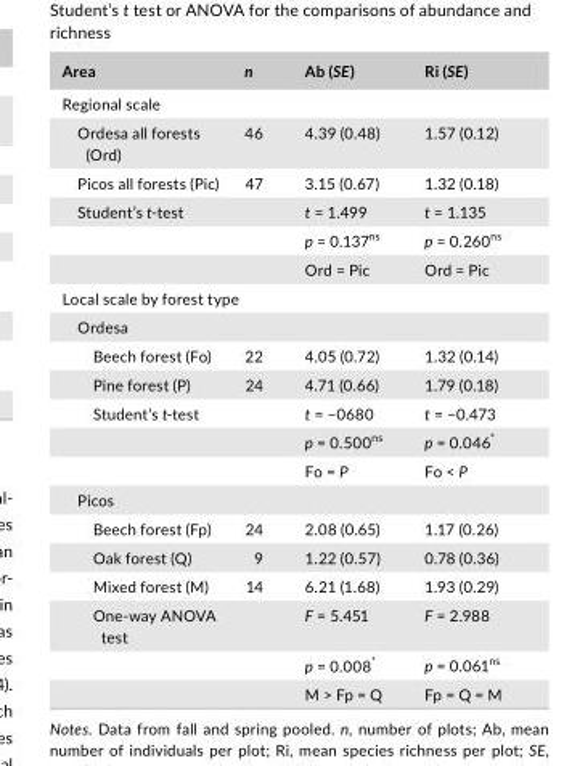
<table><thead><tr><td>Area</td><td>n</td><td>Ab (SE)</td><td>Ri (SE)</td></tr></thead><tbody><tr><td colspan="4">Regional scale</td></tr><tr><td>Ordesa all forests (Ord)</td><td>46</td><td>4.39 (0.48)</td><td>1.57 (0.12)</td></tr><tr><td>Picos all forests (Pic)</td><td>47</td><td>3.15 (0.67)</td><td>1.32 (0.18)</td></tr><tr><td rowspan="3">Student’s t- test</td><td></td><td>t = 1.499</td><td>t = 1.135</td></tr><tr><td></td><td>p = 0.137<sup>ns</sup></td><td>p = 0.260<sup>ns</sup></td></tr><tr><td></td><td>Ord = Pic</td><td>Ord = Pic</td></tr><tr><td colspan="4">Local scale by forest type</td></tr><tr><td colspan="4">Ordesa</td></tr><tr><td>Beech forest (Fo)</td><td>22</td><td>4.05 (0.72)</td><td>1.32 (0.14)</td></tr><tr><td>Pine forest (P)</td><td>24</td><td>4.71 (0.66)</td><td>1.79 (0.18)</td></tr><tr><td rowspan="3">Student’s t- test</td><td></td><td>t = −0680</td><td>t = −0.473</td></tr><tr><td></td><td>p = 0.500<sup>ns</sup></td><td>p = 0.046*</td></tr><tr><td></td><td>Fo = P</td><td>Fo &lt; P</td></tr><tr><td colspan="4">Picos</td></tr><tr><td>Beech forest (Fp)</td><td>24</td><td>2.08 (0.65)</td><td>1.17 (0.26)</td></tr><tr><td>Oak forest (Q)</td><td>9</td><td>1.22 (0.57)</td><td>0.78 (0.36)</td></tr><tr><td>Mixed forest (M)</td><td>14</td><td>6.21 (1.68)</td><td>1.93 (0.29)</td></tr><tr><td rowspan="3">One- way ANOVA test</td><td></td><td>F = 5.451</td><td>F = 2.988</td></tr><tr><td></td><td>p = 0.008*</td><td>p = 0.061<sup>ns</sup></td></tr><tr><td></td><td>M &gt; Fp = Q</td><td>Fp = Q = M</td></tr></tbody></table>